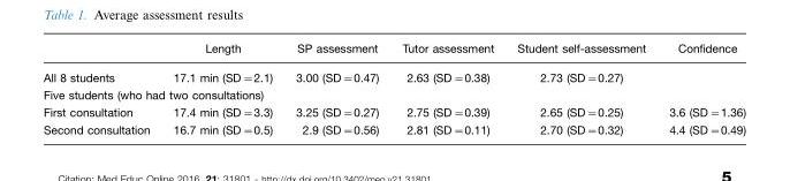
<table><thead><tr><td></td><td>Length</td><td>SP assessment</td><td>Tutor assessment</td><td>Student self-assessment</td><td>Confidence</td></tr></thead><tbody><tr><td>All 8 students</td><td>17.1 min (SD=2.1)</td><td>3.00 (SD=0.47)</td><td>2.63 (SD=0.38)</td><td>2.73 (SD=0.27)</td><td></td></tr><tr><td colspan="6">Five students (who had two consultations)</td></tr><tr><td>First consultation</td><td>17.4 min (SD=3.3)</td><td>3.25 (SD=0.27)</td><td>2.75 (SD=0.39)</td><td>2.65 (SD=0.25)</td><td>3.6 (SD=1.36)</td></tr><tr><td>Second consultation</td><td>16.7 min (SD=0.5)</td><td>2.9 (SD=0.56)</td><td>2.81 (SD=0.11)</td><td>2.70 (SD=0.32)</td><td>4.4 (SD=0.49)</td></tr></tbody></table>